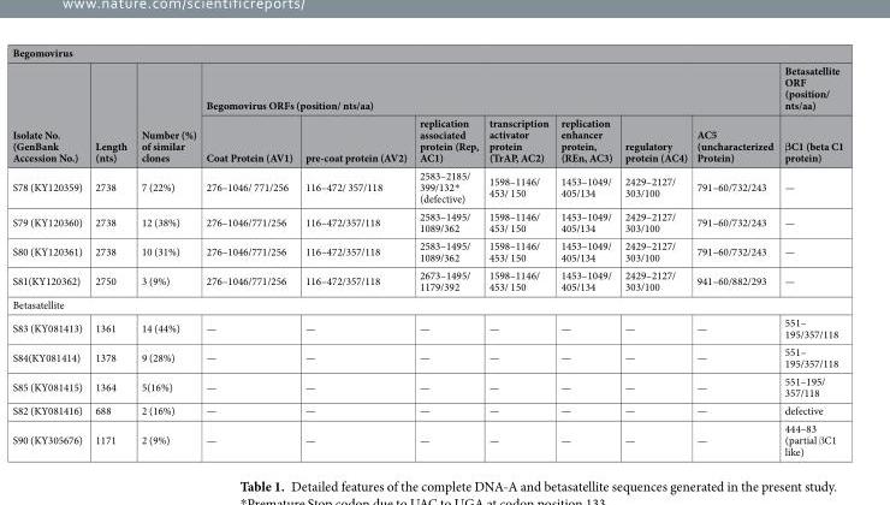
<table><thead><tr><td colspan="11">Begomovirus</td></tr><tr><td rowspan="2">Isolate No. (GenBank Accession No.)</td><td rowspan="2">Length (nts)</td><td rowspan="2">Number (%) of similar clones</td><td colspan="7">Begomovirus ORFs (position/ nts/aa)</td><td rowspan="2">Betasatellite ORF (position/ nts/aa) βC1 (beta C1 protein)</td></tr><tr><td>Coat Protein (AV1)</td><td>pre-coat protein (AV2)</td><td>replication associated protein (Rep, AC1)</td><td>transcription activator protein (TrAP, AC2)</td><td>replication enhancer protein, (REn, AC3)</td><td>regulatory protein (AC4)</td><td>AC5 (uncharacterized Protein)</td></tr></thead><tbody><tr><td>S78 (KY120359)</td><td>2738</td><td>7 (22%)</td><td>276–1046/ 771/256</td><td>116–472/ 357/118</td><td>2583–2185/ 399/132* (defective)</td><td>1598–1146/ 453/ 150</td><td>1453–1049/ 405/134</td><td>2429–2127/ 303/100</td><td>791–60/732/243</td><td>—</td></tr><tr><td>S79 (KY120360)</td><td>2738</td><td>12 (38%)</td><td>276–1046/771/256</td><td>116–472/357/118</td><td>2583–1495/ 1089/362</td><td>1598–1146/ 453/ 150</td><td>1453–1049/ 405/134</td><td>2429–2127/ 303/100</td><td>791–60/732/243</td><td>—</td></tr><tr><td>S80 (KY120361)</td><td>2738</td><td>10 (31%)</td><td>276–1046/771/256</td><td>116–472/357/118</td><td>2583–1495/ 1089/362</td><td>1598–1146/ 453/ 150</td><td>1453–1049/ 405/134</td><td>2429–2127/ 303/100</td><td>791–60/732/243</td><td>—</td></tr><tr><td>S81(KY120362)</td><td>2750</td><td>3 (9%)</td><td>276–1046/771/256</td><td>116–472/357/118</td><td>2673–1495/ 1179/392</td><td>1598–1146/ 453/ 150</td><td>1453–1049/ 405/134</td><td>2429–2127/ 303/100</td><td>941–60/882/293</td><td>—</td></tr><tr><td colspan="11">Betasatellite</td></tr><tr><td>S83 (KY081413)</td><td>1361</td><td>14 (44%)</td><td>—</td><td>—</td><td>—</td><td>—</td><td>—</td><td>—</td><td>—</td><td>551– 195/357/118</td></tr><tr><td>S84(KY081414)</td><td>1378</td><td>9 (28%)</td><td>—</td><td>—</td><td>—</td><td>—</td><td>—</td><td>—</td><td>—</td><td>551– 195/357/118</td></tr><tr><td>S85 (KY081415)</td><td>1364</td><td>5(16%)</td><td>—</td><td>—</td><td>—</td><td>—</td><td>—</td><td>—</td><td>—</td><td>551–195/ 357/118</td></tr><tr><td>S82 (KY081416)</td><td>688</td><td>2 (16%)</td><td>—</td><td>—</td><td>—</td><td>—</td><td>—</td><td>—</td><td>—</td><td>defective</td></tr><tr><td>S90 (KY305676)</td><td>1171</td><td>2 (9%)</td><td>—</td><td>—</td><td>—</td><td>—</td><td>—</td><td>—</td><td>—</td><td>444–83 (partial βC1 like)</td></tr></tbody></table>